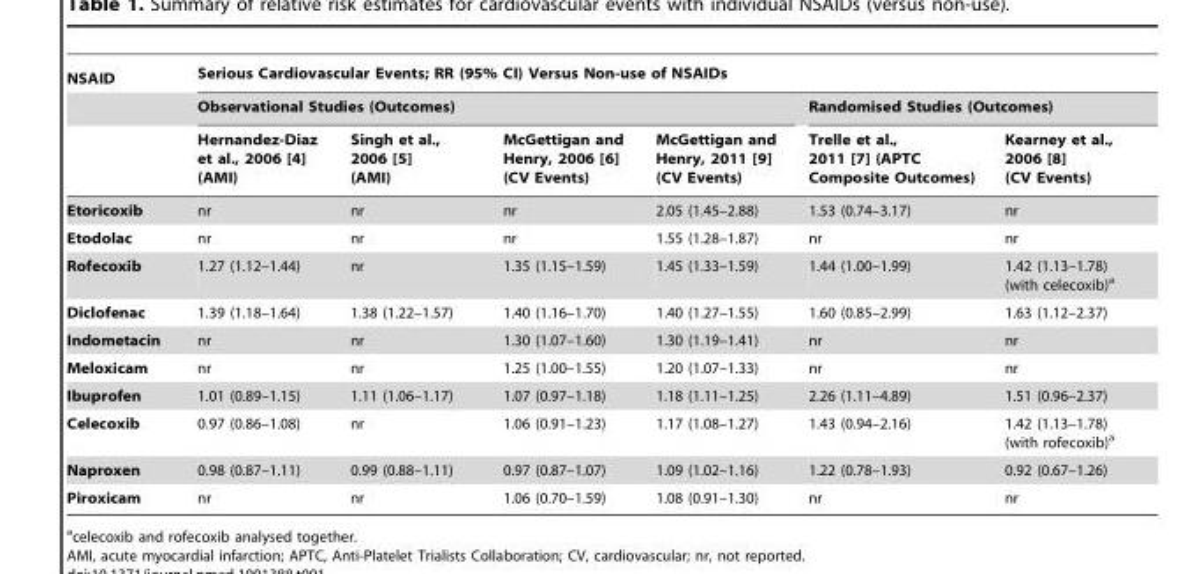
<table><thead><tr><td rowspan="3">NSAID</td><td colspan="6">Serious Cardiovascular Events; RR (95% CI) Versus Non-use of NSAIDs</td></tr><tr><td colspan="4">Observational Studies (Outcomes)</td><td colspan="2">Randomised Studies (Outcomes)</td></tr><tr><td>Hernandez-Diaz et al., 2006 [4] (AMI)</td><td>Singh et al., 2006 [5] (AMI)</td><td>McGettigan and Henry, 2006 [6] (CV Events)</td><td>McGettigan and Henry, 2011 [9] (CV Events)</td><td>Trelle et al., 2011 [7] (APTC Composite Outcomes)</td><td>Kearney et al., 2006 [8] (CV Events)</td></tr></thead><tbody><tr><td>Etoricoxib</td><td>nr</td><td>nr</td><td>nr</td><td>2.05 (1.45–2.88)</td><td>1.53 (0.74–3.17)</td><td>nr</td></tr><tr><td>Etodolac</td><td>nr</td><td>nr</td><td>nr</td><td>1.55 (1.28–1.87)</td><td>nr</td><td>nr</td></tr><tr><td>Rofecoxib</td><td>1.27 (1.12–1.44)</td><td>nr</td><td>1.35 (1.15–1.59)</td><td>1.45 (1.33–1.59)</td><td>1.44 (1.00–1.99)</td><td>1.42 (1.13–1.78) (with celecoxib)<sup>a</sup></td></tr><tr><td>Diclofenac</td><td>1.39 (1.18–1.64)</td><td>1.38 (1.22–1.57)</td><td>1.40 (1.16–1.70)</td><td>1.40 (1.27–1.55)</td><td>1.60 (0.85–2.99)</td><td>1.63 (1.12–2.37)</td></tr><tr><td>Indometacin</td><td>nr</td><td>nr</td><td>1.30 (1.07–1.60)</td><td>1.30 (1.19–1.41)</td><td>nr</td><td>nr</td></tr><tr><td>Meloxicam</td><td>nr</td><td>nr</td><td>1.25 (1.00–1.55)</td><td>1.20 (1.07–1.33)</td><td>nr</td><td>nr</td></tr><tr><td>Ibuprofen</td><td>1.01 (0.89–1.15)</td><td>1.11 (1.06–1.17)</td><td>1.07 (0.97–1.18)</td><td>1.18 (1.11–1.25)</td><td>2.26 (1.11–4.89)</td><td>1.51 (0.96–2.37)</td></tr><tr><td>Celecoxib</td><td>0.97 (0.86–1.08)</td><td>nr</td><td>1.06 (0.91–1.23)</td><td>1.17 (1.08–1.27)</td><td>1.43 (0.94–2.16)</td><td>1.42 (1.13–1.78) (with rofecoxib)<sup>a</sup></td></tr><tr><td>Naproxen</td><td>0.98 (0.87–1.11)</td><td>0.99 (0.88–1.11)</td><td>0.97 (0.87–1.07)</td><td>1.09 (1.02–1.16)</td><td>1.22 (0.78–1.93)</td><td>0.92 (0.67–1.26)</td></tr><tr><td>Piroxicam</td><td>nr</td><td>nr</td><td>1.06 (0.70–1.59)</td><td>1.08 (0.91–1.30)</td><td>nr</td><td>nr</td></tr></tbody></table>